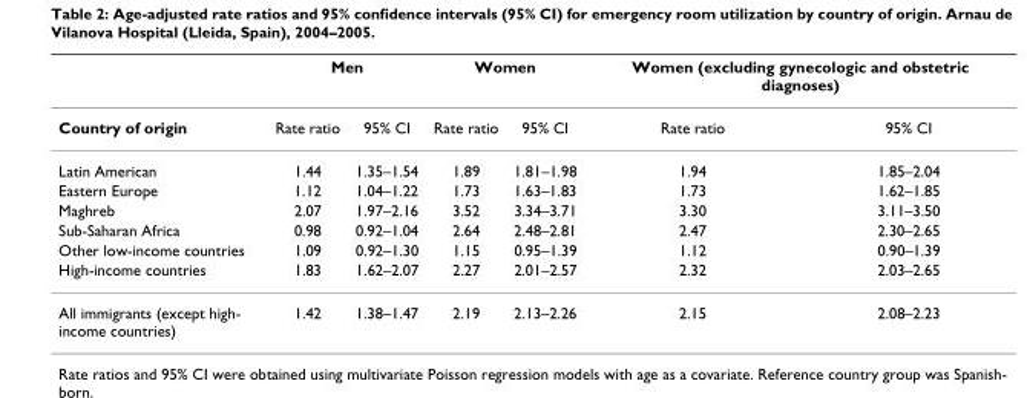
<table><thead><tr><td rowspan="2">Country of origin</td><td colspan="2">Men</td><td colspan="2">Women</td><td colspan="2">Women (excluding gynecologic and obstetric diagnoses)</td></tr><tr><td>Rate ratio</td><td>95% CI</td><td>Rate ratio</td><td>95% CI</td><td>Rate ratio</td><td>95% CI</td></tr></thead><tbody><tr><td>Latin American</td><td>1.44</td><td>1.35–1.54</td><td>1.89</td><td>1.81–1.98</td><td>1.94</td><td>1.85–2.04</td></tr><tr><td>Eastern Europe</td><td>1.12</td><td>1.04–1.22</td><td>1.73</td><td>1.63–1.83</td><td>1.73</td><td>1.62–1.85</td></tr><tr><td>Maghreb</td><td>2.07</td><td>1.97–2.16</td><td>3.52</td><td>3.34–3.71</td><td>3.30</td><td>3.11–3.50</td></tr><tr><td>Sub-Saharan Africa</td><td>0.98</td><td>0.92–1.04</td><td>2.64</td><td>2.48–2.81</td><td>2.47</td><td>2.30–2.65</td></tr><tr><td>Other low-income countries</td><td>1.09</td><td>0.92–1.30</td><td>1.15</td><td>0.95–1.39</td><td>1.12</td><td>0.90–1.39</td></tr><tr><td>High-income countries</td><td>1.83</td><td>1.62–2.07</td><td>2.27</td><td>2.01–2.57</td><td>2.32</td><td>2.03–2.65</td></tr><tr><td>All immigrants (except high- income countries)</td><td>1.42</td><td>1.38–1.47</td><td>2.19</td><td>2.13–2.26</td><td>2.15</td><td>2.08–2.23</td></tr></tbody></table>